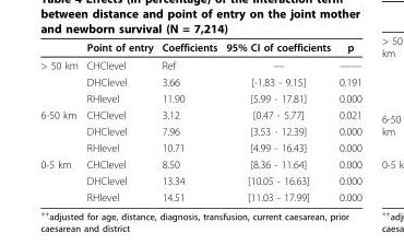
<table><thead><tr><td></td><td>Point of entry</td><td>Coefficients</td><td>95% CI of coefficients</td><td>p</td></tr></thead><tbody><tr><td rowspan="3">&gt; 50 km</td><td>CHClevel</td><td>Ref</td><td>—</td><td>——</td></tr><tr><td>DHClevel</td><td>3.66</td><td>[-1.83 - 9.15]</td><td>0.191</td></tr><tr><td>RHlevel</td><td>11.90</td><td>[5.99 - 17.81]</td><td>0.000</td></tr><tr><td rowspan="3">6-50 km</td><td>CHClevel</td><td>3.12</td><td>[0.47 - 5.77]</td><td>0.021</td></tr><tr><td>DHClevel</td><td>7.96</td><td>[3.53 - 12.39]</td><td>0.000</td></tr><tr><td>RHlevel</td><td>10.71</td><td>[4.99 - 16.43]</td><td>0.000</td></tr><tr><td rowspan="3">0-5 km</td><td>CHClevel</td><td>8.50</td><td>[8.36 - 11.64]</td><td>0.000</td></tr><tr><td>DHClevel</td><td>13.34</td><td>[10.05 - 16.63]</td><td>0.000</td></tr><tr><td>RHlevel</td><td>14.51</td><td>[11.03 - 17.99]</td><td>0.000</td></tr></tbody></table>